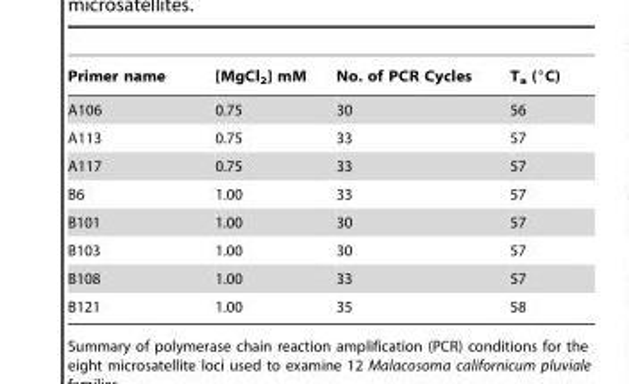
<table><thead><tr><td>Primer name</td><td>[MgCl<sub>2</sub>] mM</td><td>No. of PCR Cycles</td><td>T<sub>a</sub> (°C)</td></tr></thead><tbody><tr><td>A106</td><td>0.75</td><td>30</td><td>56</td></tr><tr><td>A113</td><td>0.75</td><td>33</td><td>57</td></tr><tr><td>A117</td><td>0.75</td><td>33</td><td>57</td></tr><tr><td>B6</td><td>1.00</td><td>33</td><td>57</td></tr><tr><td>B101</td><td>1.00</td><td>30</td><td>57</td></tr><tr><td>B103</td><td>1.00</td><td>30</td><td>57</td></tr><tr><td>B108</td><td>1.00</td><td>33</td><td>57</td></tr><tr><td>B121</td><td>1.00</td><td>35</td><td>58</td></tr></tbody></table>